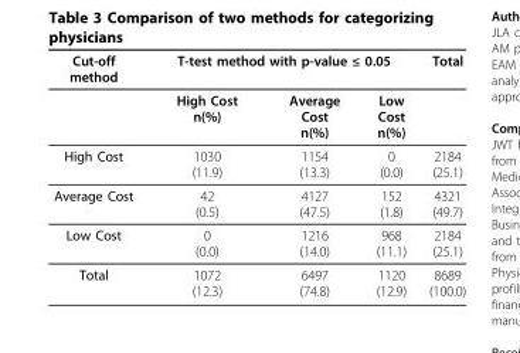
<table><thead><tr><td rowspan="2">Cut-off method</td><td colspan="3">T-test method with p-value ≤ 0.05</td><td rowspan="2">Total</td></tr><tr><td>High Cost n(%)</td><td>Average Cost n(%)</td><td>Low Cost n(%)</td></tr></thead><tbody><tr><td>High Cost</td><td>1030 (11.9)</td><td>1154 (13.3)</td><td>0 (0.0)</td><td>2184 (25.1)</td></tr><tr><td>Average Cost</td><td>42 (0.5)</td><td>4127 (47.5)</td><td>152 (1.8)</td><td>4321 (49.7)</td></tr><tr><td>Low Cost</td><td>0 (0.0)</td><td>1216 (14.0)</td><td>968 (11.1)</td><td>2184 (25.1)</td></tr><tr><td>Total</td><td>1072 (12.3)</td><td>6497 (74.8)</td><td>1120 (12.9)</td><td>8689 (100.0)</td></tr></tbody></table>